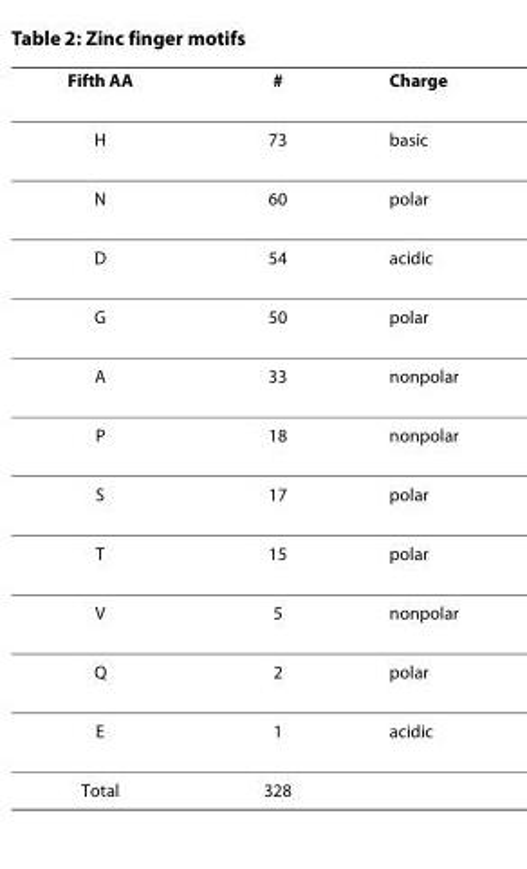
<table><thead><tr><td>Fifth AA</td><td>#</td><td>Charge</td></tr></thead><tbody><tr><td>H</td><td>73</td><td>basic</td></tr><tr><td>N</td><td>60</td><td>polar</td></tr><tr><td>D</td><td>54</td><td>acidic</td></tr><tr><td>G</td><td>50</td><td>polar</td></tr><tr><td>A</td><td>33</td><td>nonpolar</td></tr><tr><td>P</td><td>18</td><td>nonpolar</td></tr><tr><td>S</td><td>17</td><td>polar</td></tr><tr><td>T</td><td>15</td><td>polar</td></tr><tr><td>V</td><td>5</td><td>nonpolar</td></tr><tr><td>Q</td><td>2</td><td>polar</td></tr><tr><td>E</td><td>1</td><td>acidic</td></tr><tr><td>Total</td><td>328</td><td></td></tr></tbody></table>